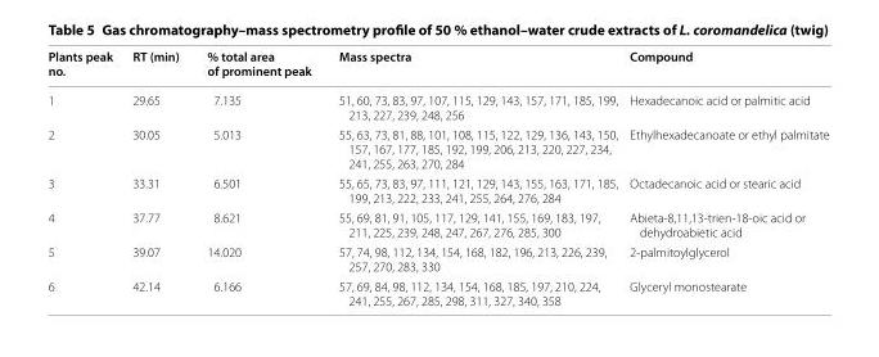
<table><thead><tr><td>Plants peak no.</td><td>RT (min)</td><td>% total area of prominent peak</td><td>Mass spectra</td><td>Compound</td></tr></thead><tbody><tr><td>1</td><td>29.65</td><td>7.135</td><td>51, 60, 73, 83, 97, 107, 115, 129, 143, 157, 171, 185, 199, 213, 227, 239, 248, 256</td><td>Hexadecanoic acid or palmitic acid</td></tr><tr><td>2</td><td>30.05</td><td>5.013</td><td>55, 63, 73, 81, 88, 101, 108, 115, 122, 129, 136, 143, 150, 157, 167, 177, 185, 192, 199, 206, 213, 220, 227, 234, 241, 255, 263, 270, 284</td><td>Ethylhexadecanoate or ethyl palmitate</td></tr><tr><td>3</td><td>33.31</td><td>6.501</td><td>55, 65, 73, 83, 97, 111, 121, 129, 143, 155, 163, 171, 185, 199, 213, 222, 233, 241, 255, 264, 276, 284</td><td>Octadecanoic acid or stearic acid</td></tr><tr><td>4</td><td>37.77</td><td>8.621</td><td>55, 69, 81, 91, 105, 117, 129, 141, 155, 169, 183, 197, 211, 225, 239, 248, 247, 267, 276, 285, 300</td><td>Abieta-8,11,13-trien-18-oic acid or dehydroabietic acid</td></tr><tr><td>5</td><td>39.07</td><td>14.020</td><td>57, 74, 98, 112, 134, 154, 168, 182, 196, 213, 226, 239, 257, 270, 283, 330</td><td>2-palmitoylglycerol</td></tr><tr><td>6</td><td>42.14</td><td>6.166</td><td>57, 69, 84, 98, 112, 134, 154, 168, 185, 197, 210, 224, 241, 255, 267, 285, 298, 311, 327, 340, 358</td><td>Glyceryl monostearate</td></tr></tbody></table>